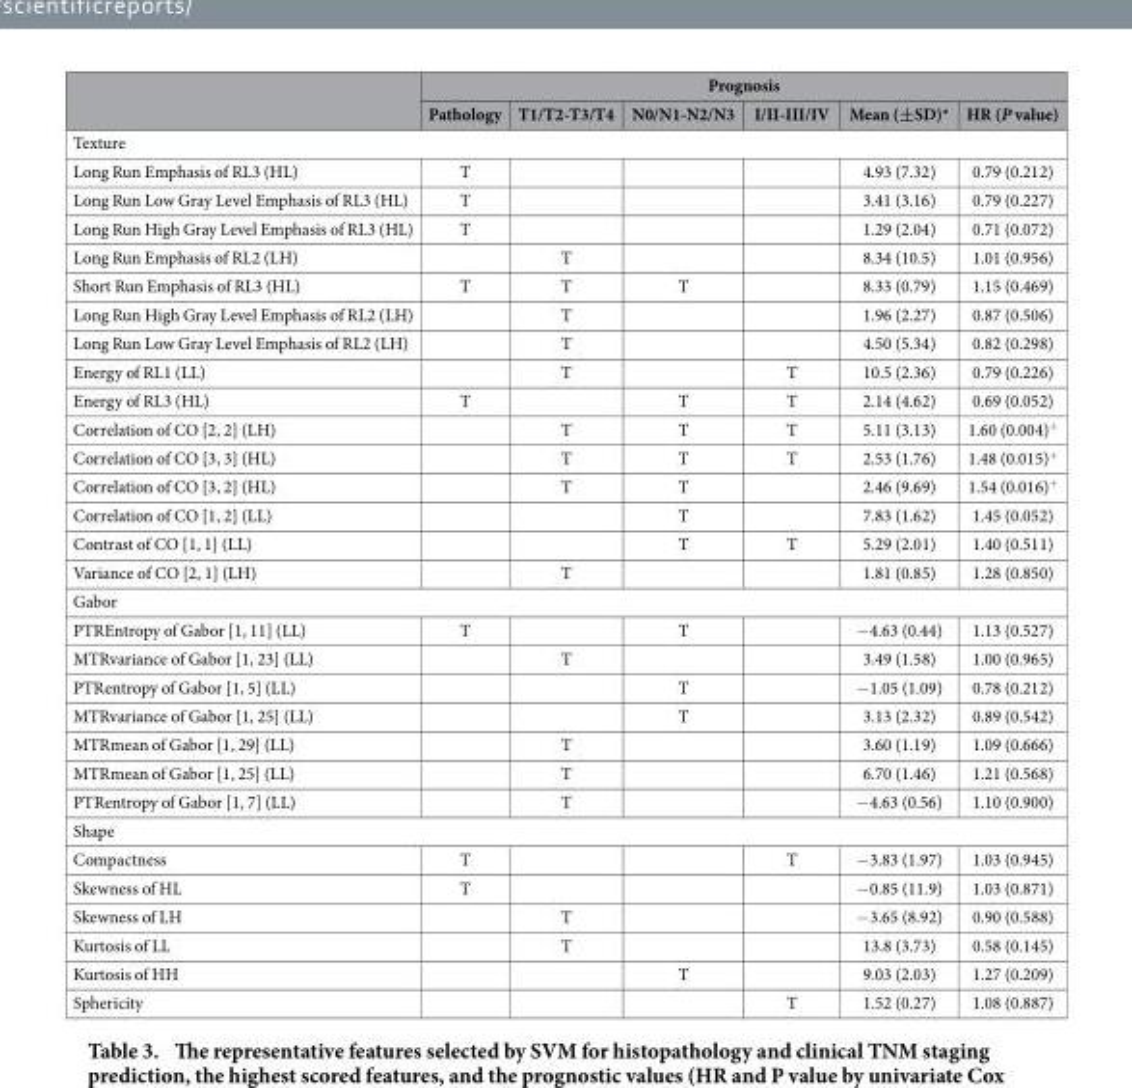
<table><thead><tr><td rowspan="2"></td><td colspan="6">Prognosis</td></tr><tr><td>Pathology</td><td>T1/T2-T3/T4</td><td>N0/N1-N2/N3</td><td>I/II-III/IV</td><td>Mean (±SD)*</td><td>HR (P value)</td></tr></thead><tbody><tr><td colspan="7">Texture</td></tr><tr><td>Long Run Emphasis of RL3 (HL)</td><td>T</td><td></td><td></td><td></td><td>4.93 (7.32)</td><td>0.79 (0.212)</td></tr><tr><td>Long Run Low Gray Level Emphasis of RL3 (HL)</td><td>T</td><td></td><td></td><td></td><td>3.41 (3.16)</td><td>0.79 (0.227)</td></tr><tr><td>Long Run High Gray Level Emphasis of RL3 (HL)</td><td>T</td><td></td><td></td><td></td><td>1.29 (2.04)</td><td>0.71 (0.072)</td></tr><tr><td>Long Run Emphasis of RL2 (LH)</td><td></td><td>T</td><td></td><td></td><td>8.34 (10.5)</td><td>1.01 (0.956)</td></tr><tr><td>Short Run Emphasis of RL3 (HL)</td><td>T</td><td>T</td><td>T</td><td></td><td>8.33 (0.79)</td><td>1.15 (0.469)</td></tr><tr><td>Long Run High Gray Level Emphasis of RL2 (LH)</td><td></td><td>T</td><td></td><td></td><td>1.96 (2.27)</td><td>0.87 (0.506)</td></tr><tr><td>Long Run Low Gray Level Emphasis of RL2 (LH)</td><td></td><td>T</td><td></td><td></td><td>4.50 (5.34)</td><td>0.82 (0.298)</td></tr><tr><td>Energy of RL1 (LL)</td><td></td><td>T</td><td></td><td>T</td><td>10.5 (2.36)</td><td>0.79 (0.226)</td></tr><tr><td>Energy of RL3 (HL)</td><td>T</td><td></td><td>T</td><td>T</td><td>2.14 (4.62)</td><td>0.69 (0.052)</td></tr><tr><td>Correlation of CO [2, 2] (LH)</td><td></td><td>T</td><td>T</td><td>T</td><td>5.11 (3.13)</td><td>1.60 (0.004)<sup>+</sup></td></tr><tr><td>Correlation of CO [3, 3] (HL)</td><td></td><td>T</td><td>T</td><td>T</td><td>2.53 (1.76)</td><td>1.48 (0.015)<sup>+</sup></td></tr><tr><td>Correlation of CO [3, 2] (HL)</td><td></td><td>T</td><td>T</td><td></td><td>2.46 (9.69)</td><td>1.54 (0.016)<sup>+</sup></td></tr><tr><td>Correlation of CO [1, 2] (LL)</td><td></td><td></td><td>T</td><td></td><td>7.83 (1.62)</td><td>1.45 (0.052)</td></tr><tr><td>Contrast of CO [1, 1] (LL)</td><td></td><td></td><td>T</td><td>T</td><td>5.29 (2.01)</td><td>1.40 (0.511)</td></tr><tr><td>Variance of CO [2, 1] (LH)</td><td></td><td>T</td><td></td><td></td><td>1.81 (0.85)</td><td>1.28 (0.850)</td></tr><tr><td colspan="7">Gabor</td></tr><tr><td>PTREntropy of Gabor [1, 11] (LL)</td><td>T</td><td></td><td>T</td><td></td><td>− 4.63 (0.44)</td><td>1.13 (0.527)</td></tr><tr><td>MTRvariance of Gabor [1, 23] (LL)</td><td></td><td>T</td><td></td><td></td><td>3.49 (1.58)</td><td>1.00 (0.965)</td></tr><tr><td>PTRentropy of Gabor [1, 5] (LL)</td><td></td><td></td><td>T</td><td></td><td>− 1.05 (1.09)</td><td>0.78 (0.212)</td></tr><tr><td>MTRvariance of Gabor [1, 25] (LL)</td><td></td><td></td><td>T</td><td></td><td>3.13 (2.32)</td><td>0.89 (0.542)</td></tr><tr><td>MTRmean of Gabor [1, 29] (LL)</td><td></td><td>T</td><td></td><td></td><td>3.60 (1.19)</td><td>1.09 (0.666)</td></tr><tr><td>MTRmean of Gabor [1, 25] (LL)</td><td></td><td>T</td><td></td><td></td><td>6.70 (1.46)</td><td>1.21 (0.568)</td></tr><tr><td>PTRentropy of Gabor [1, 7] (LL)</td><td></td><td>T</td><td></td><td></td><td>− 4.63 (0.56)</td><td>1.10 (0.900)</td></tr><tr><td colspan="7">Shape</td></tr><tr><td>Compactness</td><td>T</td><td></td><td></td><td>T</td><td>− 3.83 (1.97)</td><td>1.03 (0.945)</td></tr><tr><td>Skewness of HL</td><td>T</td><td></td><td></td><td></td><td>− 0.85 (11.9)</td><td>1.03 (0.871)</td></tr><tr><td>Skewness of LH</td><td></td><td>T</td><td></td><td></td><td>− 3.65 (8.92)</td><td>0.90 (0.588)</td></tr><tr><td>Kurtosis of LL</td><td></td><td>T</td><td></td><td></td><td>13.8 (3.73)</td><td>0.58 (0.145)</td></tr><tr><td>Kurtosis of HH</td><td></td><td></td><td>T</td><td></td><td>9.03 (2.03)</td><td>1.27 (0.209)</td></tr><tr><td>Sphericity</td><td></td><td></td><td></td><td>T</td><td>1.52 (0.27)</td><td>1.08 (0.887)</td></tr></tbody></table>